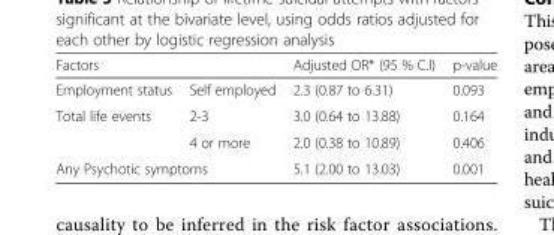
<table><thead><tr><td colspan="2">Factors</td><td rowspan="2">Adjusted OR* (95 % C.I) 2.3 (0.87 to 6.31)</td><td rowspan="2">p-value 0.093</td></tr><tr><td>Employment status</td><td>Self employed</td></tr></thead><tbody><tr><td rowspan="2">Total life events</td><td>2-3</td><td>3.0 (0.64 to 13.88)</td><td>0.164</td></tr><tr><td>4 or more</td><td>2.0 (0.38 to 10.89)</td><td>0.406</td></tr><tr><td colspan="2">Any Psychotic symptoms</td><td>5.1 (2.00 to 13.03)</td><td>0.001</td></tr></tbody></table>